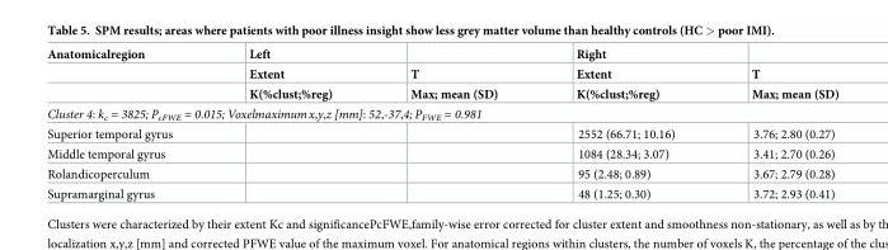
<table><thead><tr><td rowspan="3">Anatomicalregion</td><td rowspan="3">Left Extent K(%clust;%reg)</td><td rowspan="3">T Max; mean (SD)</td><td rowspan="3">Right Extent K(%clust;%reg)</td><td rowspan="3">T Max; mean (SD)</td></tr><tr></tr><tr></tr></thead><tbody><tr><td colspan="5">Cluster 4: k<sub>c</sub> = 3825; P<sub>cFWE</sub> = 0.015; Voxelmaximumx,y,z [mm]: 52,-37,4; P<sub>FWE</sub> = 0.981</td></tr><tr><td>Superior temporal gyrus</td><td></td><td></td><td>2552 (66.71; 10.16)</td><td>3.76; 2.80 (0.27)</td></tr><tr><td>Middle temporal gyrus</td><td></td><td></td><td>1084 (28.34; 3.07)</td><td>3.41; 2.70 (0.26)</td></tr><tr><td>Rolandicoperculum</td><td></td><td></td><td>95 (2.48; 0.89)</td><td>3.67; 2.79 (0.28)</td></tr><tr><td>Supramarginal gyrus</td><td></td><td></td><td>48 (1.25; 0.30)</td><td>3.72; 2.93 (0.41)</td></tr></tbody></table>